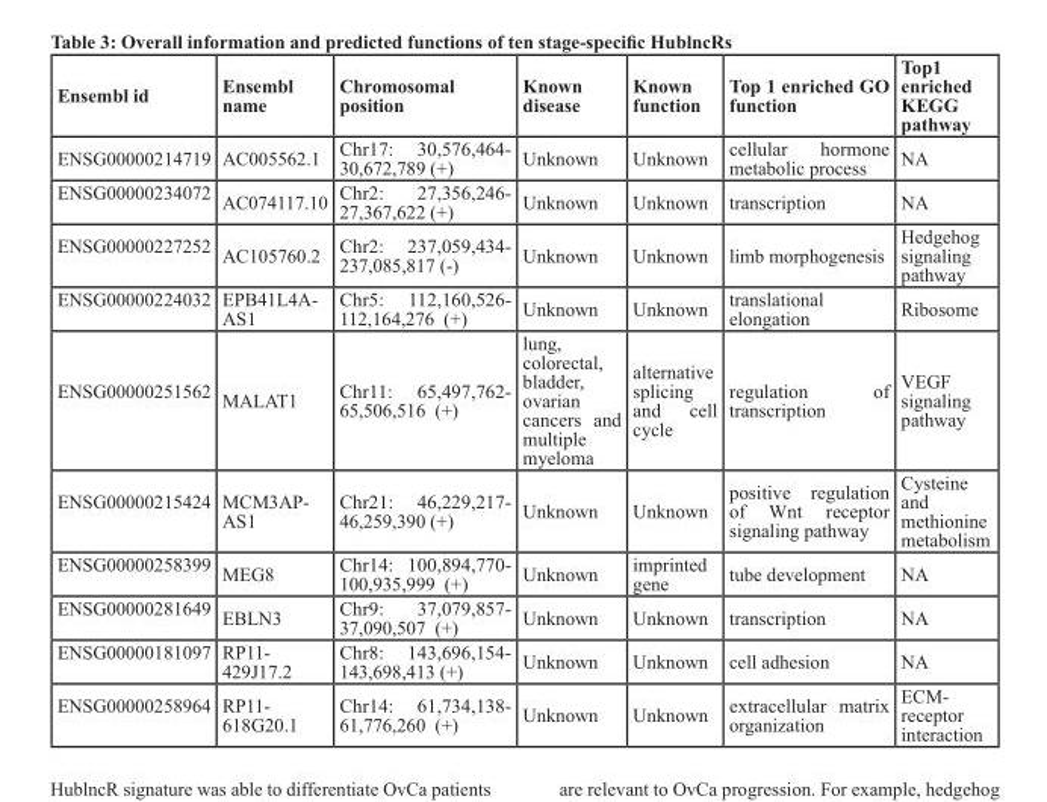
<table><thead><tr><td>Ensembl id</td><td>Ensembl name</td><td>Chromosomal position</td><td>Known disease</td><td>Known function</td><td>Top 1 enriched GO function</td><td>Top1 enriched KEGG pathway</td></tr></thead><tbody><tr><td>ENSG00000214719</td><td>AC005562.1</td><td>Chr17: 30,576,464- 30,672,789 (+)</td><td>Unknown</td><td>Unknown</td><td>cellular hormone metabolic process</td><td>NA</td></tr><tr><td>ENSG00000234072</td><td>AC074117.10</td><td>Chr2: 27,356,246- 27,367,622 (+)</td><td>Unknown</td><td>Unknown</td><td>transcription</td><td>NA</td></tr><tr><td>ENSG00000227252</td><td>AC105760.2</td><td>Chr2: 237,059,434- 237,085,817 (-)</td><td>Unknown</td><td>Unknown</td><td>limb morphogenesis</td><td>Hedgehog signaling pathway</td></tr><tr><td>ENSG00000224032</td><td>EPB41L4A- AS1</td><td>Chr5: 112,160,526- 112,164,276 (+)</td><td>Unknown</td><td>Unknown</td><td>translational elongation</td><td>Ribosome</td></tr><tr><td>ENSG00000251562</td><td>MALAT1</td><td>Chr11: 65,497,762- 65,506,516 (+)</td><td>lung, colorectal, bladder, ovarian cancers and multiple myeloma</td><td>alternative splicing and cell cycle</td><td>regulation of transcription</td><td>VEGF signaling pathway</td></tr><tr><td>ENSG00000215424</td><td>MCM3AP- AS1</td><td>Chr21: 46,229,217- 46,259,390 (+)</td><td>Unknown</td><td>Unknown</td><td>positive regulation of Wnt receptor signaling pathway</td><td>Cysteine and methionine metabolism</td></tr><tr><td>ENSG00000258399</td><td>MEG8</td><td>Chr14: 100,894,770- 100,935,999 (+)</td><td>Unknown</td><td>imprinted gene</td><td>tube development</td><td>NA</td></tr><tr><td>ENSG00000281649</td><td>EBLN3</td><td>Chr9: 37,079,857- 37,090,507 (+)</td><td>Unknown</td><td>Unknown</td><td>transcription</td><td>NA</td></tr><tr><td>ENSG00000181097</td><td>RP11- 429J17.2</td><td>Chr8: 143,696,154- 143,698,413 (+)</td><td>Unknown</td><td>Unknown</td><td>cell adhesion</td><td>NA</td></tr><tr><td>ENSG00000258964</td><td>RP11- 618G20.1</td><td>Chr14: 61,734,138- 61,776,260 (+)</td><td>Unknown</td><td>Unknown</td><td>extracellular matrix organization</td><td>ECM- receptor interaction</td></tr></tbody></table>